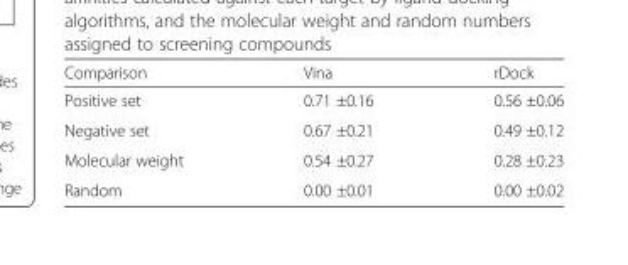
<table><thead><tr><td>Comparison</td><td>Vina</td><td>rDock</td></tr></thead><tbody><tr><td>Positive set</td><td>0.71 ±0.16</td><td>0.56 ±0.06</td></tr><tr><td>Negative set</td><td>0.67 ±0.21</td><td>0.49 ±0.12</td></tr><tr><td>Molecular weight</td><td>0.54 ±0.27</td><td>0.28 ±0.23</td></tr><tr><td>Random</td><td>0.00 ±0.01</td><td>0.00 ±0.02</td></tr></tbody></table>